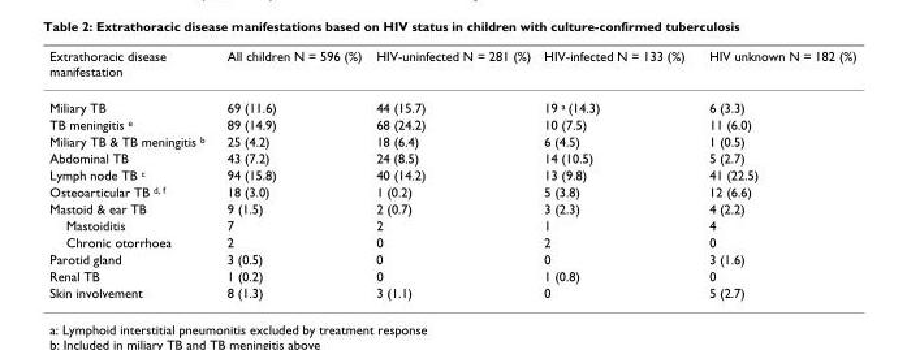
<table><thead><tr><td>Extrathoracic disease manifestation</td><td>All children N = 596 (%)</td><td>HIV-uninfected N = 281 (%)</td><td>HIV-infected N = 133 (%)</td><td>HIV unknown N = 182 (%)</td></tr></thead><tbody><tr><td>Miliary TB</td><td>69 (11.6)</td><td>44 (15.7)</td><td>19 <sup>a</sup> (14.3)</td><td>6 (3.3)</td></tr><tr><td>TB meningitis <sup>e</sup></td><td>89 (14.9)</td><td>68 (24.2)</td><td>10 (7.5)</td><td>11 (6.0)</td></tr><tr><td>Miliary TB &amp; TB meningitis <sup>b</sup></td><td>25 (4.2)</td><td>18 (6.4)</td><td>6 (4.5)</td><td>1 (0.5)</td></tr><tr><td>Abdominal TB</td><td>43 (7.2)</td><td>24 (8.5)</td><td>14 (10.5)</td><td>5 (2.7)</td></tr><tr><td>Lymph node TB <sup>c</sup></td><td>94 (15.8)</td><td>40 (14.2)</td><td>13 (9.8)</td><td>41 (22.5)</td></tr><tr><td>Osteoarticular TB <sup>d, f</sup></td><td>18 (3.0)</td><td>1 (0.2)</td><td>5 (3.8)</td><td>12 (6.6)</td></tr><tr><td>Mastoid &amp; ear TB</td><td>9 (1.5)</td><td>2 (0.7)</td><td>3 (2.3)</td><td>4 (2.2)</td></tr><tr><td>Mastoiditis</td><td>7</td><td>2</td><td>1</td><td>4</td></tr><tr><td>Chronic otorrhoea</td><td>2</td><td>0</td><td>2</td><td>0</td></tr><tr><td>Parotid gland</td><td>3 (0.5)</td><td>0</td><td>0</td><td>3 (1.6)</td></tr><tr><td>Renal TB</td><td>1 (0.2)</td><td>0</td><td>1 (0.8)</td><td>0</td></tr><tr><td>Skin involvement</td><td>8 (1.3)</td><td>3 (1.1)</td><td>0</td><td>5 (2.7)</td></tr></tbody></table>